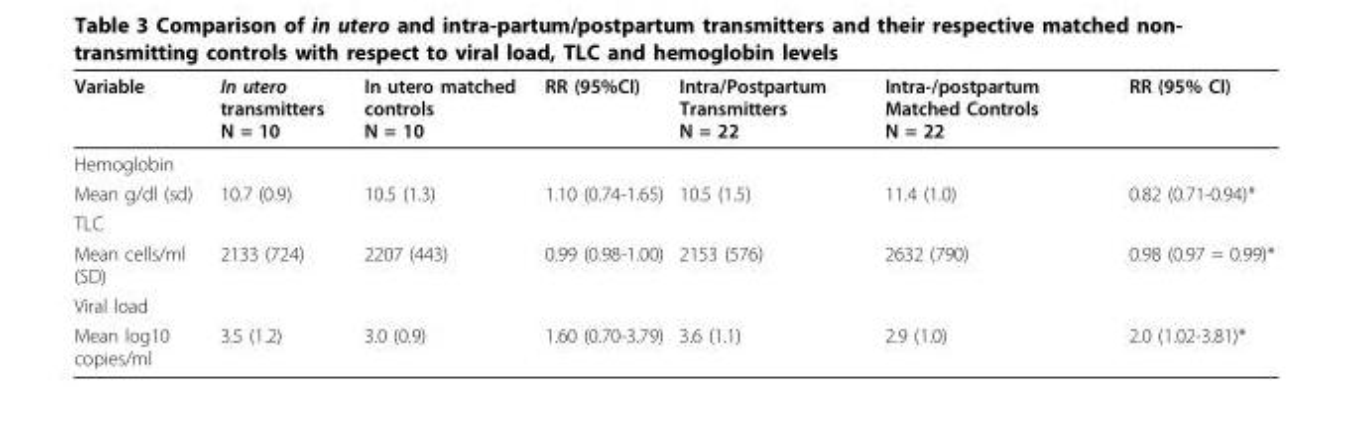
<table><thead><tr><td>Variable</td><td>In utero transmitters N = 10</td><td>In utero matched controls N = 10</td><td>RR (95%CI)</td><td>Intra/Postpartum Transmitters N = 22</td><td>Intra-/postpartum Matched Controls N = 22</td><td>RR (95% CI)</td></tr></thead><tbody><tr><td colspan="7">Hemoglobin</td></tr><tr><td>Mean g/dl (sd)</td><td>10.7 (0.9)</td><td>10.5 (1.3)</td><td>1.10 (0.74-1.65)</td><td>10.5 (1.5)</td><td>11.4 (1.0)</td><td>0.82 (0.71-0.94)*</td></tr><tr><td colspan="7">TLC</td></tr><tr><td>Mean cells/ml (SD)</td><td>2133 (724)</td><td>2207 (443)</td><td>0.99 (0.98-1.00)</td><td>2153 (576)</td><td>2632 (790)</td><td>0.98 (0.97 = 0.99)*</td></tr><tr><td colspan="7">Viral load</td></tr><tr><td>Mean log10 copies/ml</td><td>3.5 (1.2)</td><td>3.0 (0.9)</td><td>1.60 (0.70-3.79)</td><td>3.6 (1.1)</td><td>2.9 (1.0)</td><td>2.0 (1.02-3.81)*</td></tr></tbody></table>